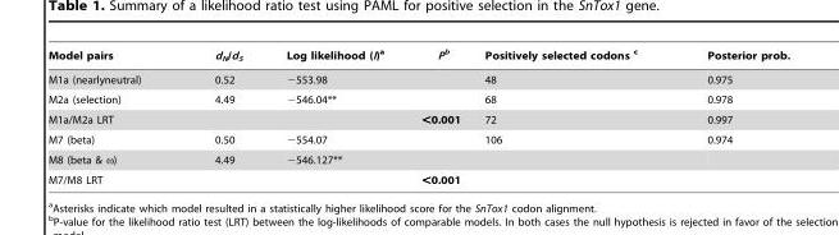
<table><thead><tr><td>Model pairs</td><td>d<sub>N</sub>/d<sub>S</sub></td><td>Log likelihood (l)<sup>a</sup></td><td>Pb</td><td>Positively selected codons c</td><td>Posterior prob.</td></tr></thead><tbody><tr><td>M1a (nearlyneutral)</td><td>0.52</td><td colspan="2">−553.98</td><td>48</td><td>0.975</td></tr><tr><td>M2a (selection)</td><td>4.49</td><td colspan="2">−546.04**</td><td>68</td><td>0.978</td></tr><tr><td>M1a/M2a LRT</td><td colspan="3">&lt;0.001</td><td>72</td><td>0.997</td></tr><tr><td>M7 (beta)</td><td>0.50</td><td colspan="2">−554.07</td><td>106</td><td>0.974</td></tr><tr><td>M8 (beta &amp; ω)</td><td>4.49</td><td colspan="2">−546.127**</td><td></td><td></td></tr><tr><td>M7/M8 LRT</td><td colspan="3">&lt;0.001</td><td></td><td></td></tr></tbody></table>